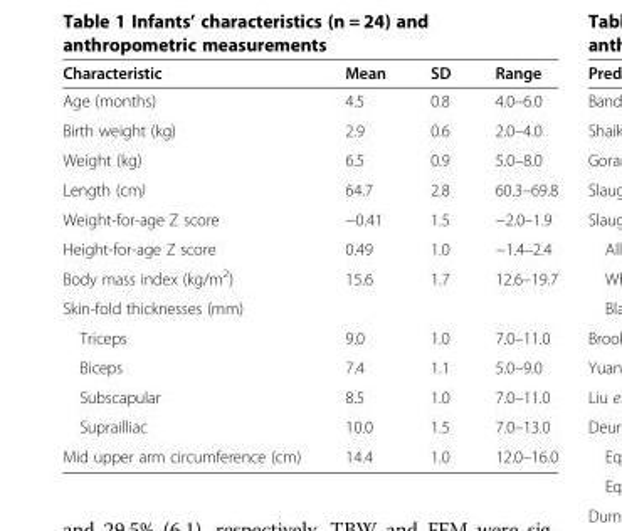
<table><thead><tr><td>Characteristic</td><td>Mean</td><td>SD</td><td>Range</td></tr></thead><tbody><tr><td>Age (months)</td><td>4.5</td><td>0.8</td><td>4.0–6.0</td></tr><tr><td>Birth weight (kg)</td><td>2.9</td><td>0.6</td><td>2.0–4.0</td></tr><tr><td>Weight (kg)</td><td>6.5</td><td>0.9</td><td>5.0–8.0</td></tr><tr><td>Length (cm)</td><td>64.7</td><td>2.8</td><td>60.3–69.8</td></tr><tr><td>Weight-for-age Z score</td><td>−0.41</td><td>1.5</td><td>−2.0–1.9</td></tr><tr><td>Height-for-age Z score</td><td>0.49</td><td>1.0</td><td>−1.4–2.4</td></tr><tr><td>Body mass index (kg/m<sup>2</sup>)</td><td>15.6</td><td>1.7</td><td>12.6–19.7</td></tr><tr><td colspan="4">Skin-fold thicknesses (mm)</td></tr><tr><td>Triceps</td><td>9.0</td><td>1.0</td><td>7.0–11.0</td></tr><tr><td>Biceps</td><td>7.4</td><td>1.1</td><td>5.0–9.0</td></tr><tr><td>Subscapular</td><td>8.5</td><td>1.0</td><td>7.0–11.0</td></tr><tr><td>Suprailliac</td><td>10.0</td><td>1.5</td><td>7.0–13.0</td></tr><tr><td>Mid upper arm circumference (cm)</td><td>14.4</td><td>1.0</td><td>12.0–16.0</td></tr></tbody></table>